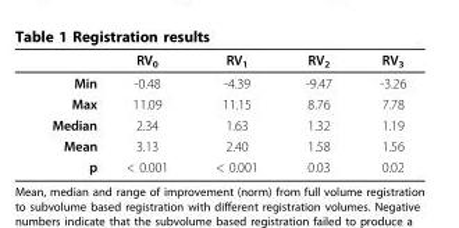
<table><thead><tr><td></td><td>RV<sub>0</sub></td><td>RV<sub>1</sub></td><td>RV<sub>2</sub></td><td>RV<sub>3</sub></td></tr></thead><tbody><tr><td>Min</td><td>-0.48</td><td>-4.39</td><td>-9.47</td><td>-3.26</td></tr><tr><td>Max</td><td>11.09</td><td>11.15</td><td>8.76</td><td>7.78</td></tr><tr><td>Median</td><td>2.34</td><td>1.63</td><td>1.32</td><td>1.19</td></tr><tr><td>Mean</td><td>3.13</td><td>2.40</td><td>1.58</td><td>1.56</td></tr><tr><td>p</td><td>&lt; 0.001</td><td>&lt; 0.001</td><td>0.03</td><td>0.02</td></tr></tbody></table>